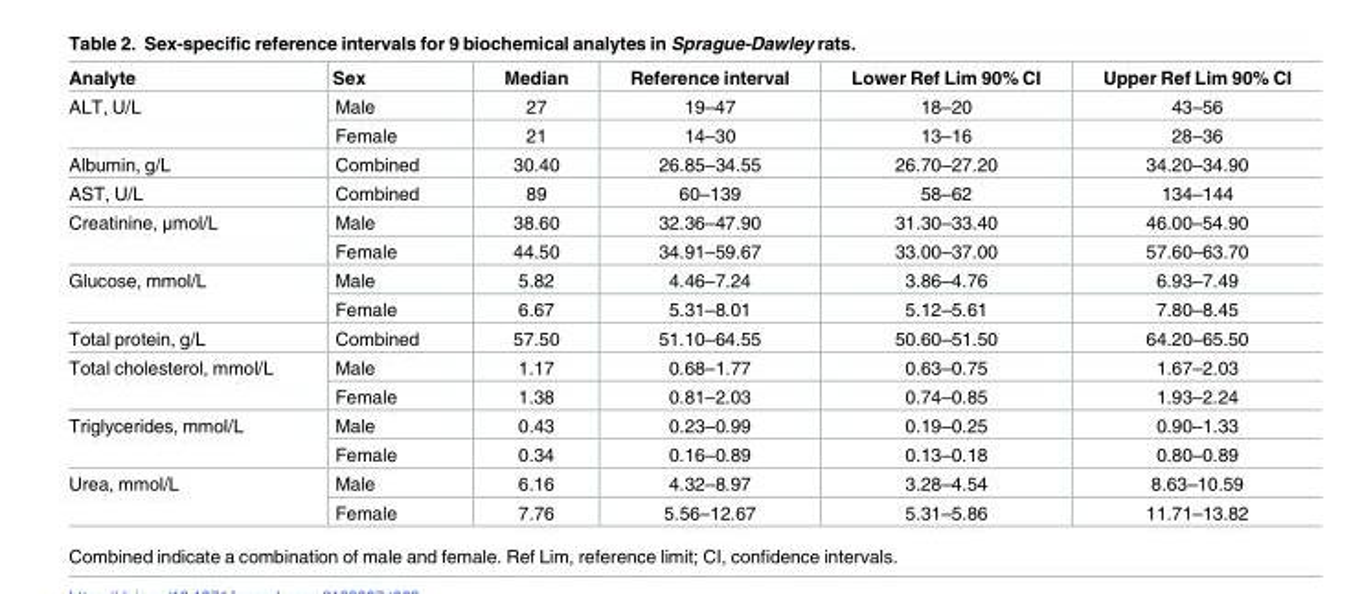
<table><thead><tr><td>Analyte</td><td>Sex</td><td>Median</td><td>Reference interval</td><td>Lower Ref Lim 90% CI</td><td>Upper Ref Lim 90% CI</td></tr></thead><tbody><tr><td rowspan="2">ALT, U/L</td><td>Male</td><td>27</td><td>19–47</td><td>18–20</td><td>43–56</td></tr><tr><td>Female</td><td>21</td><td>14–30</td><td>13–16</td><td>28–36</td></tr><tr><td>Albumin, g/L</td><td>Combined</td><td>30.40</td><td>26.85–34.55</td><td>26.70–27.20</td><td>34.20–34.90</td></tr><tr><td>AST, U/L</td><td>Combined</td><td>89</td><td>60–139</td><td>58–62</td><td>134–144</td></tr><tr><td rowspan="2">Creatinine, μmol/L</td><td>Male</td><td>38.60</td><td>32.36–47.90</td><td>31.30–33.40</td><td>46.00–54.90</td></tr><tr><td>Female</td><td>44.50</td><td>34.91–59.67</td><td>33.00–37.00</td><td>57.60–63.70</td></tr><tr><td rowspan="2">Glucose, mmol/L</td><td>Male</td><td>5.82</td><td>4.46–7.24</td><td>3.86–4.76</td><td>6.93–7.49</td></tr><tr><td>Female</td><td>6.67</td><td>5.31–8.01</td><td>5.12–5.61</td><td>7.80–8.45</td></tr><tr><td>Total protein, g/L</td><td>Combined</td><td>57.50</td><td>51.10–64.55</td><td>50.60–51.50</td><td>64.20–65.50</td></tr><tr><td rowspan="2">Total cholesterol, mmol/L</td><td>Male</td><td>1.17</td><td>0.68–1.77</td><td>0.63–0.75</td><td>1.67–2.03</td></tr><tr><td>Female</td><td>1.38</td><td>0.81–2.03</td><td>0.74–0.85</td><td>1.93–2.24</td></tr><tr><td rowspan="2">Triglycerides, mmol/L</td><td>Male</td><td>0.43</td><td>0.23–0.99</td><td>0.19–0.25</td><td>0.90–1.33</td></tr><tr><td>Female</td><td>0.34</td><td>0.16–0.89</td><td>0.13–0.18</td><td>0.80–0.89</td></tr><tr><td rowspan="2">Urea, mmol/L</td><td>Male</td><td>6.16</td><td>4.32–8.97</td><td>3.28–4.54</td><td>8.63–10.59</td></tr><tr><td>Female</td><td>7.76</td><td>5.56–12.67</td><td>5.31–5.86</td><td>11.71–13.82</td></tr></tbody></table>